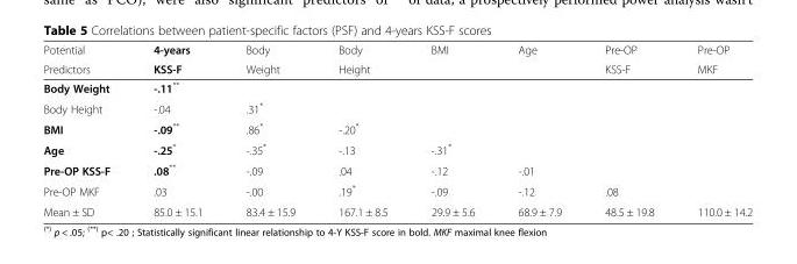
<table><thead><tr><td rowspan="2">Potential Predictors</td><td rowspan="2">4-years KSS-F</td><td rowspan="2">Body Weight</td><td rowspan="2">Body Height</td><td rowspan="2">BMI</td><td rowspan="2">Age</td><td rowspan="2">Pre-OP KSS-F</td><td rowspan="2">Pre-OP MKF</td></tr><tr></tr></thead><tbody><tr><td>Body Weight</td><td>-.11**</td><td></td><td></td><td></td><td></td><td></td><td></td></tr><tr><td>Body Height</td><td>-.04</td><td>.31*</td><td></td><td></td><td></td><td></td><td></td></tr><tr><td>BMI</td><td>-.09**</td><td>.86*</td><td>-.20*</td><td></td><td></td><td></td><td></td></tr><tr><td>Age</td><td>-.25*</td><td>-.35*</td><td>-.13</td><td>-.31*</td><td></td><td></td><td></td></tr><tr><td>Pre-OP KSS-F</td><td>.08**</td><td>-.09</td><td>.04</td><td>-.12</td><td>-.01</td><td></td><td></td></tr><tr><td>Pre-OP MKF</td><td>.03</td><td>-.00</td><td>.19*</td><td>-.09</td><td>-.12</td><td>.08</td><td></td></tr><tr><td>Mean ± SD</td><td>85.0 ± 15.1</td><td>83.4 ± 15.9</td><td>167.1 ± 8.5</td><td>29.9 ± 5.6</td><td>68.9 ± 7.9</td><td>48.5 ± 19.8</td><td>110.0 ± 14.2</td></tr></tbody></table>